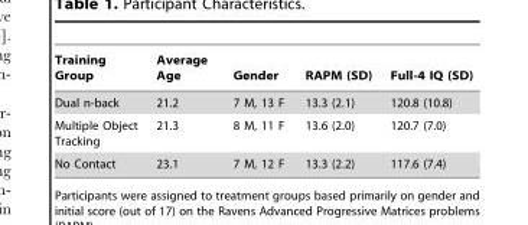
<table><thead><tr><td>Training Group</td><td>Average Age</td><td>Gender</td><td>RAPM (SD)</td><td>Full-4 IQ (SD)</td></tr></thead><tbody><tr><td>Dual n-back</td><td>21.2</td><td>7 M, 13 F</td><td>13.3 (2.1)</td><td>120.8 (10.8)</td></tr><tr><td>Multiple Object Tracking</td><td>21.3</td><td>8 M, 11 F</td><td>13.6 (2.0)</td><td>120.7 (7.0)</td></tr><tr><td>No Contact</td><td>23.1</td><td>7 M, 12 F</td><td>13.3 (2.2)</td><td>117.6 (7.4)</td></tr></tbody></table>